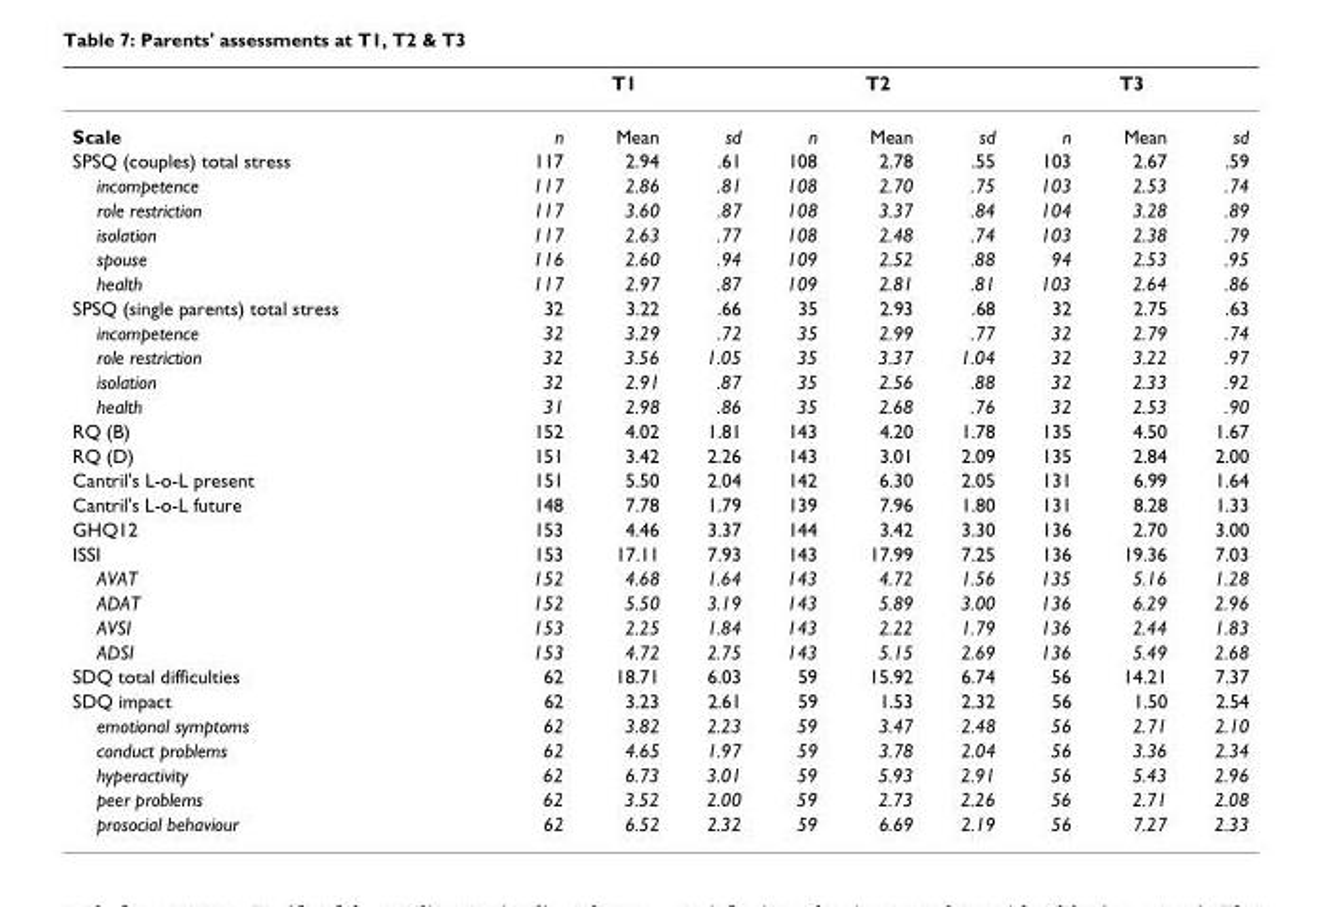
<table><thead><tr><td rowspan="2">Scale</td><td colspan="3">T1</td><td colspan="3">T2</td><td colspan="3">T3</td></tr><tr><td>n</td><td>Mean</td><td>sd</td><td>n</td><td>Mean</td><td>sd</td><td>n</td><td>Mean</td><td>sd</td></tr></thead><tbody><tr><td>SPSQ (couples) total stress</td><td>117</td><td>2.94</td><td>.61</td><td>108</td><td>2.78</td><td>.55</td><td>103</td><td>2.67</td><td>.59</td></tr><tr><td>incompetence</td><td>117</td><td>2.86</td><td>.81</td><td>108</td><td>2.70</td><td>.75</td><td>103</td><td>2.53</td><td>.74</td></tr><tr><td>role restriction</td><td>117</td><td>3.60</td><td>.87</td><td>108</td><td>3.37</td><td>.84</td><td>104</td><td>3.28</td><td>.89</td></tr><tr><td>isolation</td><td>117</td><td>2.63</td><td>.77</td><td>108</td><td>2.48</td><td>.74</td><td>103</td><td>2.38</td><td>.79</td></tr><tr><td>spouse</td><td>116</td><td>2.60</td><td>.94</td><td>109</td><td>2.52</td><td>.88</td><td>94</td><td>2.53</td><td>.95</td></tr><tr><td>health</td><td>117</td><td>2.97</td><td>.87</td><td>109</td><td>2.81</td><td>.81</td><td>103</td><td>2.64</td><td>.86</td></tr><tr><td>SPSQ (single parents) total stress</td><td>32</td><td>3.22</td><td>.66</td><td>35</td><td>2.93</td><td>.68</td><td>32</td><td>2.75</td><td>.63</td></tr><tr><td>incompetence</td><td>32</td><td>3.29</td><td>.72</td><td>35</td><td>2.99</td><td>.77</td><td>32</td><td>2.79</td><td>.74</td></tr><tr><td>role restriction</td><td>32</td><td>3.56</td><td>1.05</td><td>35</td><td>3.37</td><td>1.04</td><td>32</td><td>3.22</td><td>.97</td></tr><tr><td>isolation</td><td>32</td><td>2.91</td><td>.87</td><td>35</td><td>2.56</td><td>.88</td><td>32</td><td>2.33</td><td>.92</td></tr><tr><td>health</td><td>31</td><td>2.98</td><td>.86</td><td>35</td><td>2.68</td><td>.76</td><td>32</td><td>2.53</td><td>.90</td></tr><tr><td>RQ (B)</td><td>152</td><td>4.02</td><td>1.81</td><td>143</td><td>4.20</td><td>1.78</td><td>135</td><td>4.50</td><td>1.67</td></tr><tr><td>RQ (D)</td><td>151</td><td>3.42</td><td>2.26</td><td>143</td><td>3.01</td><td>2.09</td><td>135</td><td>2.84</td><td>2.00</td></tr><tr><td>Cantril&#x27;s L-o-L present</td><td>151</td><td>5.50</td><td>2.04</td><td>142</td><td>6.30</td><td>2.05</td><td>131</td><td>6.99</td><td>1.64</td></tr><tr><td>Cantril&#x27;s L-o-L future</td><td>148</td><td>7.78</td><td>1.79</td><td>139</td><td>7.96</td><td>1.80</td><td>131</td><td>8.28</td><td>1.33</td></tr><tr><td>GHQ12</td><td>153</td><td>4.46</td><td>3.37</td><td>144</td><td>3.42</td><td>3.30</td><td>136</td><td>2.70</td><td>3.00</td></tr><tr><td>ISSI</td><td>153</td><td>17.11</td><td>7.93</td><td>143</td><td>17.99</td><td>7.25</td><td>136</td><td>19.36</td><td>7.03</td></tr><tr><td>AVAT</td><td>152</td><td>4.68</td><td>1.64</td><td>143</td><td>4.72</td><td>1.56</td><td>135</td><td>5.16</td><td>1.28</td></tr><tr><td>ADAT</td><td>152</td><td>5.50</td><td>3.19</td><td>143</td><td>5.89</td><td>3.00</td><td>136</td><td>6.29</td><td>2.96</td></tr><tr><td>AVSI</td><td>153</td><td>2.25</td><td>1.84</td><td>143</td><td>2.22</td><td>1.79</td><td>136</td><td>2.44</td><td>1.83</td></tr><tr><td>ADSI</td><td>153</td><td>4.72</td><td>2.75</td><td>143</td><td>5.15</td><td>2.69</td><td>136</td><td>5.49</td><td>2.68</td></tr><tr><td>SDQ total difficulties</td><td>62</td><td>18.71</td><td>6.03</td><td>59</td><td>15.92</td><td>6.74</td><td>56</td><td>14.21</td><td>7.37</td></tr><tr><td>SDQ impact</td><td>62</td><td>3.23</td><td>2.61</td><td>59</td><td>1.53</td><td>2.32</td><td>56</td><td>1.50</td><td>2.54</td></tr><tr><td>emotional symptoms</td><td>62</td><td>3.82</td><td>2.23</td><td>59</td><td>3.47</td><td>2.48</td><td>56</td><td>2.71</td><td>2.10</td></tr><tr><td>conduct problems</td><td>62</td><td>4.65</td><td>1.97</td><td>59</td><td>3.78</td><td>2.04</td><td>56</td><td>3.36</td><td>2.34</td></tr><tr><td>hyperactivity</td><td>62</td><td>6.73</td><td>3.01</td><td>59</td><td>5.93</td><td>2.91</td><td>56</td><td>5.43</td><td>2.96</td></tr><tr><td>peer problems</td><td>62</td><td>3.52</td><td>2.00</td><td>59</td><td>2.73</td><td>2.26</td><td>56</td><td>2.71</td><td>2.08</td></tr><tr><td>prosocial behaviour</td><td>62</td><td>6.52</td><td>2.32</td><td>59</td><td>6.69</td><td>2.19</td><td>56</td><td>7.27</td><td>2.33</td></tr></tbody></table>